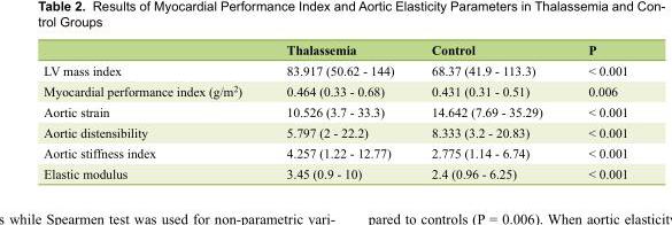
<table><thead><tr><td></td><td>Thalassemia</td><td>Control</td><td>P</td></tr></thead><tbody><tr><td>LV mass index</td><td>83.917 (50.62 - 144)</td><td>68.37 (41.9 - 113.3)</td><td>&lt; 0.001</td></tr><tr><td>Myocardial performance index (g/m<sup>2</sup>)</td><td>0.464 (0.33 - 0.68)</td><td>0.431 (0.31 - 0.51)</td><td>0.006</td></tr><tr><td>Aortic strain</td><td>10.526 (3.7 - 33.3)</td><td>14.642 (7.69 - 35.29)</td><td>&lt; 0.001</td></tr><tr><td>Aortic distensibility</td><td>5.797 (2 - 22.2)</td><td>8.333 (3.2 - 20.83)</td><td>&lt; 0.001</td></tr><tr><td>Aortic stiffness index</td><td>4.257 (1.22 - 12.77)</td><td>2.775 (1.14 - 6.74)</td><td>&lt; 0.001</td></tr><tr><td>Elastic modulus</td><td>3.45 (0.9 - 10)</td><td>2.4 (0.96 - 6.25)</td><td>&lt; 0.001</td></tr></tbody></table>